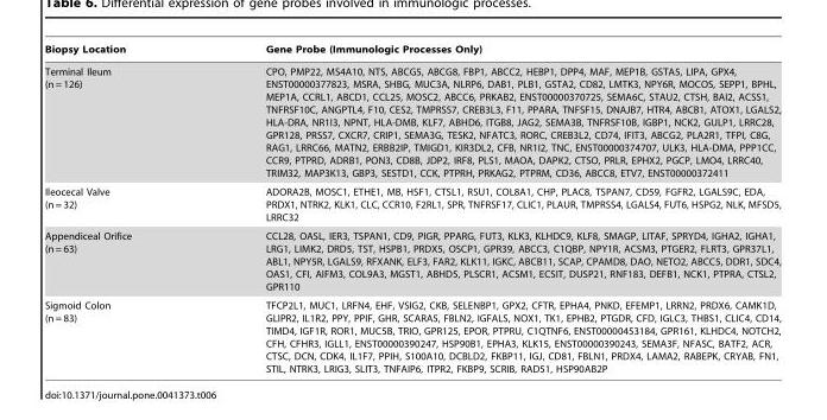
<table><thead><tr><td>Biopsy Location</td><td>Gene Probe (Immunologic Processes Only)</td></tr></thead><tbody><tr><td>Terminal Ileum (n = 126)</td><td>CPO, PMP22, MS4A10, NTS, ABCG5, ABCG8, FBP1, ABCC2, HEBP1, DPP4, MAF, MEP1B, GSTA5, LIPA, GPX4, ENST00000377823, MSRA, SHBG, MUC3A, NLRP6, DAB1, PLB1, GSTA2, CD82, LMTK3, NPY6R, MOCOS, SEPP1, BPHL, MEP1A, CCRL1, ABCD1, CCL25, MOSC2, ABCC6, PRKAB2, ENST00000370725, SEMA6C, STAU2, CTSH, BAI2, ACSS1, TNFRSF10C, ANGPTL4, F10, CES2, TMPRSS7, CREB3L3, F11, PPARA, TNFSF15, DNAJB7, HTR4, ABCB1, ATOX1, LGALS2, HLA-DRA, NR1I3, NPNT, HLA-DMB, KLF7, ABHD6, ITGB8, JAG2, SEMA3B, TNFRSF10B, IGBP1, NCK2, GULP1, LRRC28, GPR128, PRSS7, CXCR7, CRIP1, SEMA3G, TESK2, NFATC3, RORC, CREB3L2, CD74, IFIT3, ABCG2, PLA2R1, TFPI, C8G, RAG1, LRRC66, MATN2, ERBB2IP, TMIGD1, KIR3DL2, CFB, NR1I2, TNC, ENST00000374707, ULK3, HLA-DMA, PPP1CC, CCR9, PTPRD, ADRB1, PON3, CD8B, JDP2, IRF8, PLS1, MAOA, DAPK2, CTSO, PRLR, EPHX2, PGCP, LMO4, LRRC40, TRIM32, MAP3K13, GBP3, SESTD1, CCK, PTPRH, PRKAG2, PTPRM, CD36, ABCC8, ETV7, ENST00000372411</td></tr><tr><td>Ileocecal Valve (n = 32)</td><td>ADORA2B, MOSC1, ETHE1, MB, HSF1, CTSL1, RSU1, COL8A1, CHP, PLAC8, TSPAN7, CD59, FGFR2, LGALS9C, EDA, PRDX1, NTRK2, KLK1, CLC, CCR10, F2RL1, SPR, TNFRSF17, CLIC1, PLAUR, TMPRSS4, LGALS4, FUT6, HSPG2, NLK, MFSD5, LRRC32</td></tr><tr><td>Appendiceal Orifice (n = 63)</td><td>CCL28, OASL, IER3, TSPAN1, CD9, PIGR, PPARG, FUT3, KLK3, KLHDC9, KLF8, SMAGP, LITAF, SPRYD4, IGHA2, IGHA1, LRG1, LIMK2, DRD5, TST, HSPB1, PRDX5, OSCP1, GPR39, ABCC3, C1QBP, NPY1R, ACSM3, PTGER2, FLRT3, GPR37L1, ABL1, NPY5R, LGALS9, RFXANK, ELF3, FAR2, KLK11, IGKC, ABCB11, SCAP, CPAMD8, DAO, NETO2, ABCC5, DDR1, SDC4, OAS1, CFI, AIFM3, COL9A3, MGST1, ABHD5, PLSCR1, ACSM1, ECSIT, DUSP21, RNF183, DEFB1, NCK1, PTPRA, CTSL2, GPR110</td></tr><tr><td>Sigmoid Colon (n = 83)</td><td>TFCP2L1, MUC1, LRFN4, EHF, VSIG2, CKB, SELENBP1, GPX2, CFTR, EPHA4, PNKD, EFEMP1, LRRN2, PRDX6, CAMK1D, GLIPR2, IL1R2, PPY, PPIF, GHR, SCARA5, FBLN2, IGFALS, NOX1, TK1, EPHB2, PTGDR, CFD, IGLC3, THBS1, CLIC4, CD14, TIMD4, IGF1R, ROR1, MUC5B, TRIO, GPR125, EPOR, PTPRU, C1QTNF6, ENST00000453184, GPR161, KLHDC4, NOTCH2, CFH, CFHR3, IGLL1, ENST00000390247, HSP90B1, EPHA3, KLK15, ENST00000390243, SEMA3F, NFASC, BATF2, ACR, CTSC, DCN, CDK4, IL1F7, PPIH, S100A10, DCBLD2, FKBP11, IGJ, CD81, FBLN1, PRDX4, LAMA2, RABEPK, CRYAB, FN1, STIL, NTRK3, LRIG3, SLIT3, TNFAIP6, ITPR2, FKBP9, SCRIB, RAD51, HSP90AB2P</td></tr></tbody></table>